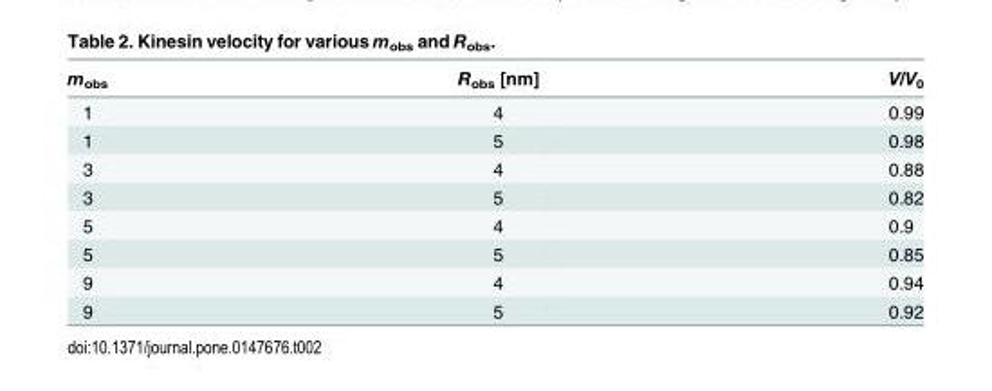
<table><thead><tr><td>m<sub>obs</sub></td><td>R<sub>obs</sub> [nm]</td><td>V/V<sub>0</sub></td></tr></thead><tbody><tr><td>1</td><td>4</td><td>0.99</td></tr><tr><td>1</td><td>5</td><td>0.98</td></tr><tr><td>3</td><td>4</td><td>0.88</td></tr><tr><td>3</td><td>5</td><td>0.82</td></tr><tr><td>5</td><td>4</td><td>0.9</td></tr><tr><td>5</td><td>5</td><td>0.85</td></tr><tr><td>9</td><td>4</td><td>0.94</td></tr><tr><td>9</td><td>5</td><td>0.92</td></tr></tbody></table>